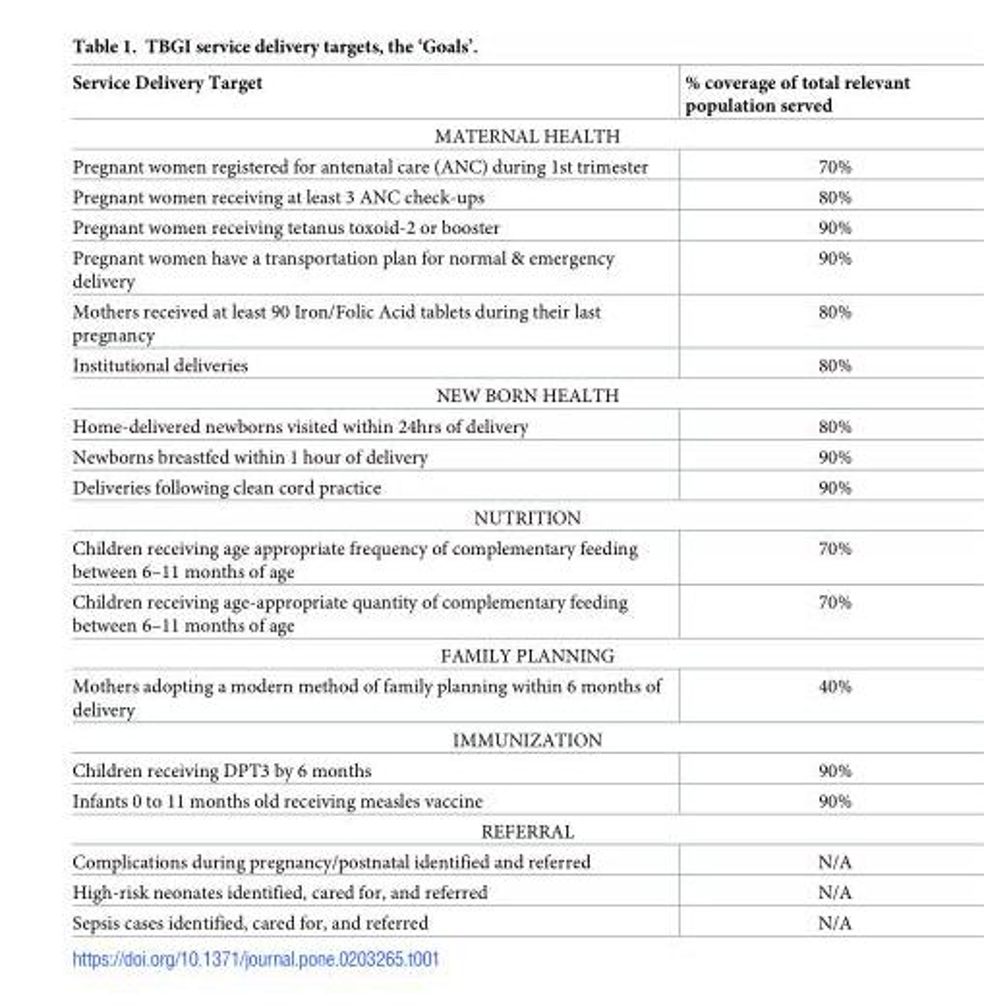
<table><thead><tr><td>Service Delivery Target</td><td>% coverage of total relevant population served</td></tr></thead><tbody><tr><td colspan="2">MATERNAL HEALTH</td></tr><tr><td>Pregnant women registered for antenatal care (ANC) during 1st trimester</td><td>70%</td></tr><tr><td>Pregnant women receiving at least 3 ANC check-ups</td><td>80%</td></tr><tr><td>Pregnant women receiving tetanus toxoid-2 or booster</td><td>90%</td></tr><tr><td>Pregnant women have a transportation plan for normal &amp; emergency delivery</td><td>90%</td></tr><tr><td>Mothers received at least 90 Iron/Folic Acid tablets during their last pregnancy</td><td>80%</td></tr><tr><td>Institutional deliveries</td><td>80%</td></tr><tr><td colspan="2">NEW BORN HEALTH</td></tr><tr><td>Home-delivered newborns visited within 24hrs of delivery</td><td>80%</td></tr><tr><td>Newborns breastfed within 1 hour of delivery</td><td>90%</td></tr><tr><td>Deliveries following clean cord practice</td><td>90%</td></tr><tr><td colspan="2">NUTRITION</td></tr><tr><td>Children receiving age appropriate frequency of complementary feeding between 6–11 months of age</td><td>70%</td></tr><tr><td>Children receiving age-appropriate quantity of complementary feeding between 6–11 months of age</td><td>70%</td></tr><tr><td colspan="2">FAMILY PLANNING</td></tr><tr><td>Mothers adopting a modern method of family planning within 6 months of delivery</td><td>40%</td></tr><tr><td colspan="2">IMMUNIZATION</td></tr><tr><td>Children receiving DPT3 by 6 months</td><td>90%</td></tr><tr><td>Infants 0 to 11 months old receiving measles vaccine</td><td>90%</td></tr><tr><td colspan="2">REFERRAL</td></tr><tr><td>Complications during pregnancy/postnatal identified and referred</td><td>N/A</td></tr><tr><td>High-risk neonates identified, cared for, and referred</td><td>N/A</td></tr><tr><td>Sepsis cases identified, cared for, and referred</td><td>N/A</td></tr></tbody></table>